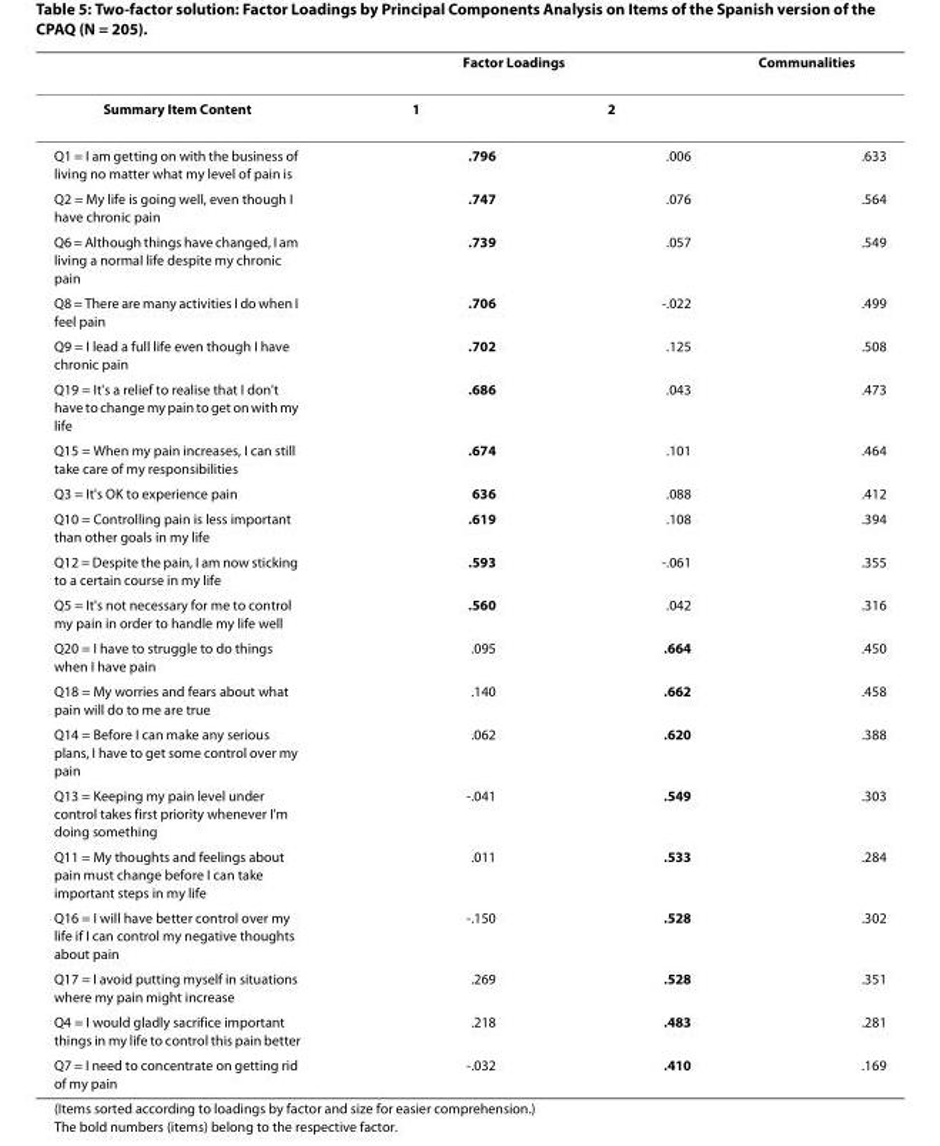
<table><thead><tr><td rowspan="2">Summary Item Content</td><td colspan="2">Factor Loadings</td><td rowspan="2">Communalities</td></tr><tr><td>1</td><td>2</td></tr></thead><tbody><tr><td>Q1 = I am getting on with the business of living no matter what my level of pain is</td><td>.796</td><td>.006</td><td>.633</td></tr><tr><td>Q2 = My life is going well, even though I have chronic pain</td><td>.747</td><td>.076</td><td>.564</td></tr><tr><td>Q6 = Although things have changed, I am living a normal life despite my chronic pain</td><td>.739</td><td>.057</td><td>.549</td></tr><tr><td>Q8 = There are many activities I do when I feel pain</td><td>.706</td><td>-.022</td><td>.499</td></tr><tr><td>Q9 = I lead a full life even though I have chronic pain</td><td>.702</td><td>.125</td><td>.508</td></tr><tr><td>Q19 = It&#x27;s a relief to realise that I don&#x27;t have to change my pain to get on with my life</td><td>.686</td><td>.043</td><td>.473</td></tr><tr><td>Q15 = When my pain increases, I can still take care of my responsibilities</td><td>.674</td><td>.101</td><td>.464</td></tr><tr><td>Q3 = It&#x27;s OK to experience pain</td><td>636</td><td>.088</td><td>.412</td></tr><tr><td>Q10 = Controlling pain is less important than other goals in my life</td><td>.619</td><td>.108</td><td>.394</td></tr><tr><td>Q12 = Despite the pain, I am now sticking to a certain course in my life</td><td>.593</td><td>-.061</td><td>.355</td></tr><tr><td>Q5 = It&#x27;s not necessary for me to control my pain in order to handle my life well</td><td>.560</td><td>.042</td><td>.316</td></tr><tr><td>Q20 = I have to struggle to do things when I have pain</td><td>.095</td><td>.664</td><td>.450</td></tr><tr><td>Q18 = My worries and fears about what pain will do to me are true</td><td>.140</td><td>.662</td><td>.458</td></tr><tr><td>Q14 = Before I can make any serious plans, I have to get some control over my pain</td><td>.062</td><td>.620</td><td>.388</td></tr><tr><td>Q13 = Keeping my pain level under control takes first priority whenever I&#x27;m doing something</td><td>-.041</td><td>.549</td><td>.303</td></tr><tr><td>Q11 = My thoughts and feelings about pain must change before I can take important steps in my life</td><td>.011</td><td>.533</td><td>.284</td></tr><tr><td>Q16 = I will have better control over my life if I can control my negative thoughts about pain</td><td>-.150</td><td>.528</td><td>.302</td></tr><tr><td>Q17 = I avoid putting myself in situations where my pain might increase</td><td>.269</td><td>.528</td><td>.351</td></tr><tr><td>Q4 = I would gladly sacrifice important things in my life to control this pain better</td><td>.218</td><td>.483</td><td>.281</td></tr><tr><td>Q7 = I need to concentrate on getting rid of my pain</td><td>-.032</td><td>.410</td><td>.169</td></tr></tbody></table>